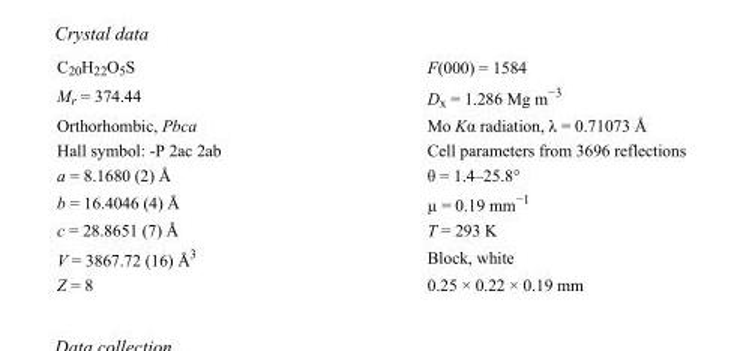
<table><tbody><tr><td>C<sub>20</sub>H<sub>22</sub>O<sub>5</sub>S</td><td>F(000) = 1584</td></tr><tr><td>M<sub>r</sub> = 374.44</td><td>D<sub>x</sub> = 1.286 Mg m<sup>−3</sup></td></tr><tr><td>Orthorhombic, Pbca</td><td>Mo Kα radiation, λ = 0.71073 Å</td></tr><tr><td>Hall symbol: -P 2ac 2ab</td><td>Cell parameters from 3696 reflections</td></tr><tr><td>a = 8.1680 (2) Å</td><td>θ = 1.4–25.8°</td></tr><tr><td>b = 16.4046 (4) Å</td><td>µ = 0.19 mm<sup>−1</sup></td></tr><tr><td>c = 28.8651 (7) Å</td><td>T = 293 K</td></tr><tr><td>V = 3867.72 (16) Å<sup>3</sup></td><td>Block, white</td></tr><tr><td>Z = 8</td><td>0.25 × 0.22 × 0.19 mm</td></tr></tbody></table>